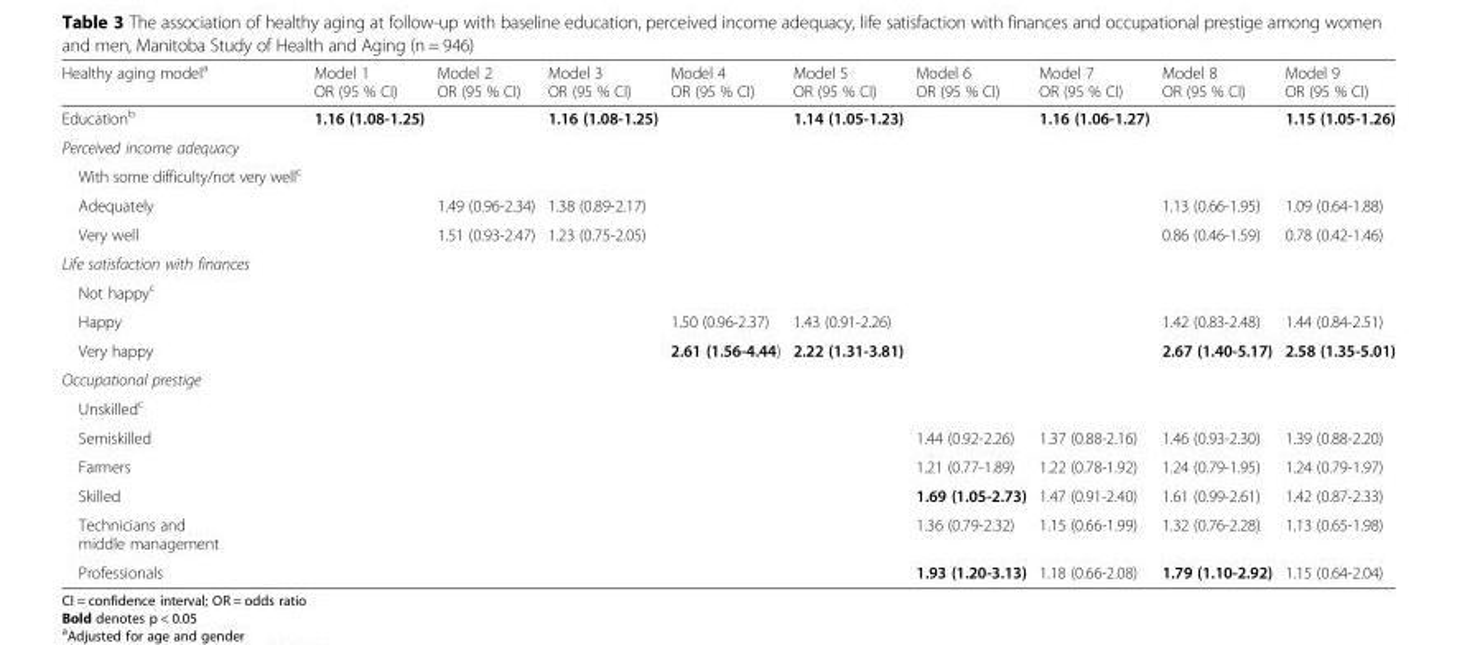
<table><thead><tr><td>Healthy aging model<sup>a</sup></td><td>Model 1 OR (95 % CI)</td><td>Model 2 OR (95 % CI)</td><td>Model 3 OR (95 % CI)</td><td>Model 4 OR (95 % CI)</td><td>Model 5 OR (95 % CI)</td><td>Model 6 OR (95 % CI)</td><td>Model 7 OR (95 % CI)</td><td>Model 8 OR (95 % CI)</td><td>Model 9 OR (95 % CI)</td></tr></thead><tbody><tr><td>Education<sup>b</sup></td><td>1.16 (1.08-1.25)</td><td></td><td>1.16 (1.08-1.25)</td><td></td><td>1.14 (1.05-1.23)</td><td></td><td>1.16 (1.06-1.27)</td><td></td><td>1.15 (1.05-1.26)</td></tr><tr><td colspan="10">Perceived income adequacy</td></tr><tr><td colspan="10">With some difficulty/not very well<sup>c</sup></td></tr><tr><td>Adequately</td><td></td><td>1.49 (0.96-2.34)</td><td>1.38 (0.89-2.17)</td><td></td><td></td><td></td><td></td><td>1.13 (0.66-1.95)</td><td>1.09 (0.64-1.88)</td></tr><tr><td>Very well</td><td></td><td>1.51 (0.93-2.47)</td><td>1.23 (0.75-2.05)</td><td></td><td></td><td></td><td></td><td>0.86 (0.46-1.59)</td><td>0.78 (0.42-1.46)</td></tr><tr><td colspan="10">Life satisfaction with finances</td></tr><tr><td colspan="10">Not happy<sup>c</sup></td></tr><tr><td>Happy</td><td></td><td></td><td></td><td>1.50 (0.96-2.37)</td><td>1.43 (0.91-2.26)</td><td></td><td></td><td>1.42 (0.83-2.48)</td><td>1.44 (0.84-2.51)</td></tr><tr><td>Very happy</td><td></td><td></td><td></td><td>2.61 (1.56-4.44)</td><td>2.22 (1.31-3.81)</td><td></td><td></td><td>2.67 (1.40-5.17)</td><td>2.58 (1.35-5.01)</td></tr><tr><td colspan="10">Occupational prestige</td></tr><tr><td colspan="10">Unskilled<sup>c</sup></td></tr><tr><td>Semiskilled</td><td></td><td></td><td></td><td></td><td></td><td>1.44 (0.92-2.26)</td><td>1.37 (0.88-2.16)</td><td>1.46 (0.93-2.30)</td><td>1.39 (0.88-2.20)</td></tr><tr><td>Farmers</td><td></td><td></td><td></td><td></td><td></td><td>1.21 (0.77-1.89)</td><td>1.22 (0.78-1.92)</td><td>1.24 (0.79-1.95)</td><td>1.24 (0.79-1.97)</td></tr><tr><td>Skilled</td><td></td><td></td><td></td><td></td><td></td><td>1.69 (1.05-2.73)</td><td>1.47 (0.91-2.40)</td><td>1.61 (0.99-2.61)</td><td>1.42 (0.87-2.33)</td></tr><tr><td>Technicians and middle management</td><td></td><td></td><td></td><td></td><td></td><td>1.36 (0.79-2.32)</td><td>1.15 (0.66-1.99)</td><td>1.32 (0.76-2.28)</td><td>1.13 (0.65-1.98)</td></tr><tr><td>Professionals</td><td></td><td></td><td></td><td></td><td></td><td>1.93 (1.20-3.13)</td><td>1.18 (0.66-2.08)</td><td>1.79 (1.10-2.92)</td><td>1.15 (0.64-2.04)</td></tr></tbody></table>